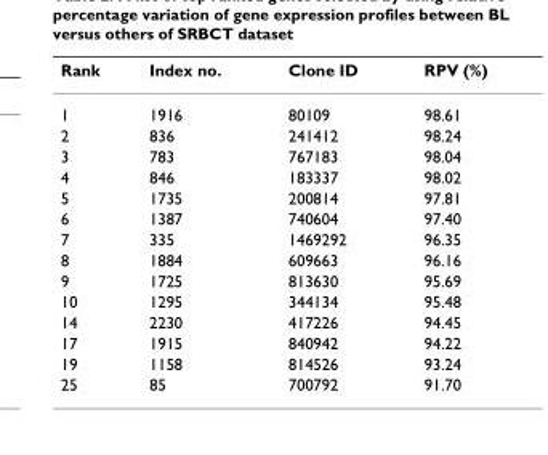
<table><thead><tr><td>Rank</td><td>Index no.</td><td>Clone ID</td><td>RPV (%)</td></tr></thead><tbody><tr><td>1</td><td>1916</td><td>80109</td><td>98.61</td></tr><tr><td>2</td><td>836</td><td>241412</td><td>98.24</td></tr><tr><td>3</td><td>783</td><td>767183</td><td>98.04</td></tr><tr><td>4</td><td>846</td><td>183337</td><td>98.02</td></tr><tr><td>5</td><td>1735</td><td>200814</td><td>97.81</td></tr><tr><td>6</td><td>1387</td><td>740604</td><td>97.40</td></tr><tr><td>7</td><td>335</td><td>1469292</td><td>96.35</td></tr><tr><td>8</td><td>1884</td><td>609663</td><td>96.16</td></tr><tr><td>9</td><td>1725</td><td>813630</td><td>95.69</td></tr><tr><td>10</td><td>1295</td><td>344134</td><td>95.48</td></tr><tr><td>14</td><td>2230</td><td>417226</td><td>94.45</td></tr><tr><td>17</td><td>1915</td><td>840942</td><td>94.22</td></tr><tr><td>19</td><td>1158</td><td>814526</td><td>93.24</td></tr><tr><td>25</td><td>85</td><td>700792</td><td>91.70</td></tr></tbody></table>